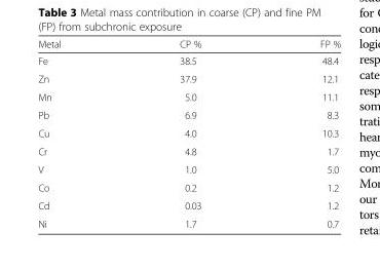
<table><thead><tr><td>Metal</td><td>CP %</td><td>FP %</td></tr></thead><tbody><tr><td>Fe</td><td>38.5</td><td>48.4</td></tr><tr><td>Zn</td><td>37.9</td><td>12.1</td></tr><tr><td>Mn</td><td>5.0</td><td>11.1</td></tr><tr><td>Pb</td><td>6.9</td><td>8.3</td></tr><tr><td>Cu</td><td>4.0</td><td>10.3</td></tr><tr><td>Cr</td><td>4.8</td><td>1.7</td></tr><tr><td>V</td><td>1.0</td><td>5.0</td></tr><tr><td>Co</td><td>0.2</td><td>1.2</td></tr><tr><td>Cd</td><td>0.03</td><td>1.2</td></tr><tr><td>Ni</td><td>1.7</td><td>0.7</td></tr></tbody></table>